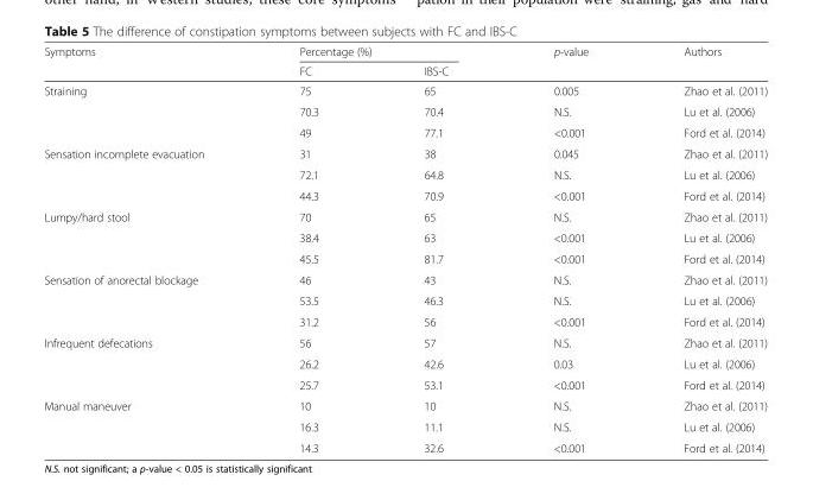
<table><thead><tr><td rowspan="2">Symptoms</td><td colspan="2">Percentage (%)</td><td rowspan="2">p-value</td><td rowspan="2">Authors</td></tr><tr><td>FC</td><td>IBS-C</td></tr></thead><tbody><tr><td rowspan="3">Straining</td><td>75</td><td>65</td><td>0.005</td><td>Zhao et al. (2011)</td></tr><tr><td>70.3</td><td>70.4</td><td>N.S.</td><td>Lu et al. (2006)</td></tr><tr><td>49</td><td>77.1</td><td>&lt;0.001</td><td>Ford et al. (2014)</td></tr><tr><td rowspan="3">Sensation incomplete evacuation</td><td>31</td><td>38</td><td>0.045</td><td>Zhao et al. (2011)</td></tr><tr><td>72.1</td><td>64.8</td><td>N.S.</td><td>Lu et al. (2006)</td></tr><tr><td>44.3</td><td>70.9</td><td>&lt;0.001</td><td>Ford et al. (2014)</td></tr><tr><td rowspan="3">Lumpy/hard stool</td><td>70</td><td>65</td><td>N.S.</td><td>Zhao et al. (2011)</td></tr><tr><td>38.4</td><td>63</td><td>&lt;0.001</td><td>Lu et al. (2006)</td></tr><tr><td>45.5</td><td>81.7</td><td>&lt;0.001</td><td>Ford et al. (2014)</td></tr><tr><td rowspan="3">Sensation of anorectal blockage</td><td>46</td><td>43</td><td>N.S.</td><td>Zhao et al. (2011)</td></tr><tr><td>53.5</td><td>46.3</td><td>N.S.</td><td>Lu et al. (2006)</td></tr><tr><td>31.2</td><td>56</td><td>&lt;0.001</td><td>Ford et al. (2014)</td></tr><tr><td rowspan="3">Infrequent defecations</td><td>56</td><td>57</td><td>N.S.</td><td>Zhao et al. (2011)</td></tr><tr><td>26.2</td><td>42.6</td><td>0.03</td><td>Lu et al. (2006)</td></tr><tr><td>25.7</td><td>53.1</td><td>&lt;0.001</td><td>Ford et al. (2014)</td></tr><tr><td rowspan="3">Manual maneuver</td><td>10</td><td>10</td><td>N.S.</td><td>Zhao et al. (2011)</td></tr><tr><td>16.3</td><td>11.1</td><td>N.S.</td><td>Lu et al. (2006)</td></tr><tr><td>14.3</td><td>32.6</td><td>&lt;0.001</td><td>Ford et al. (2014)</td></tr></tbody></table>